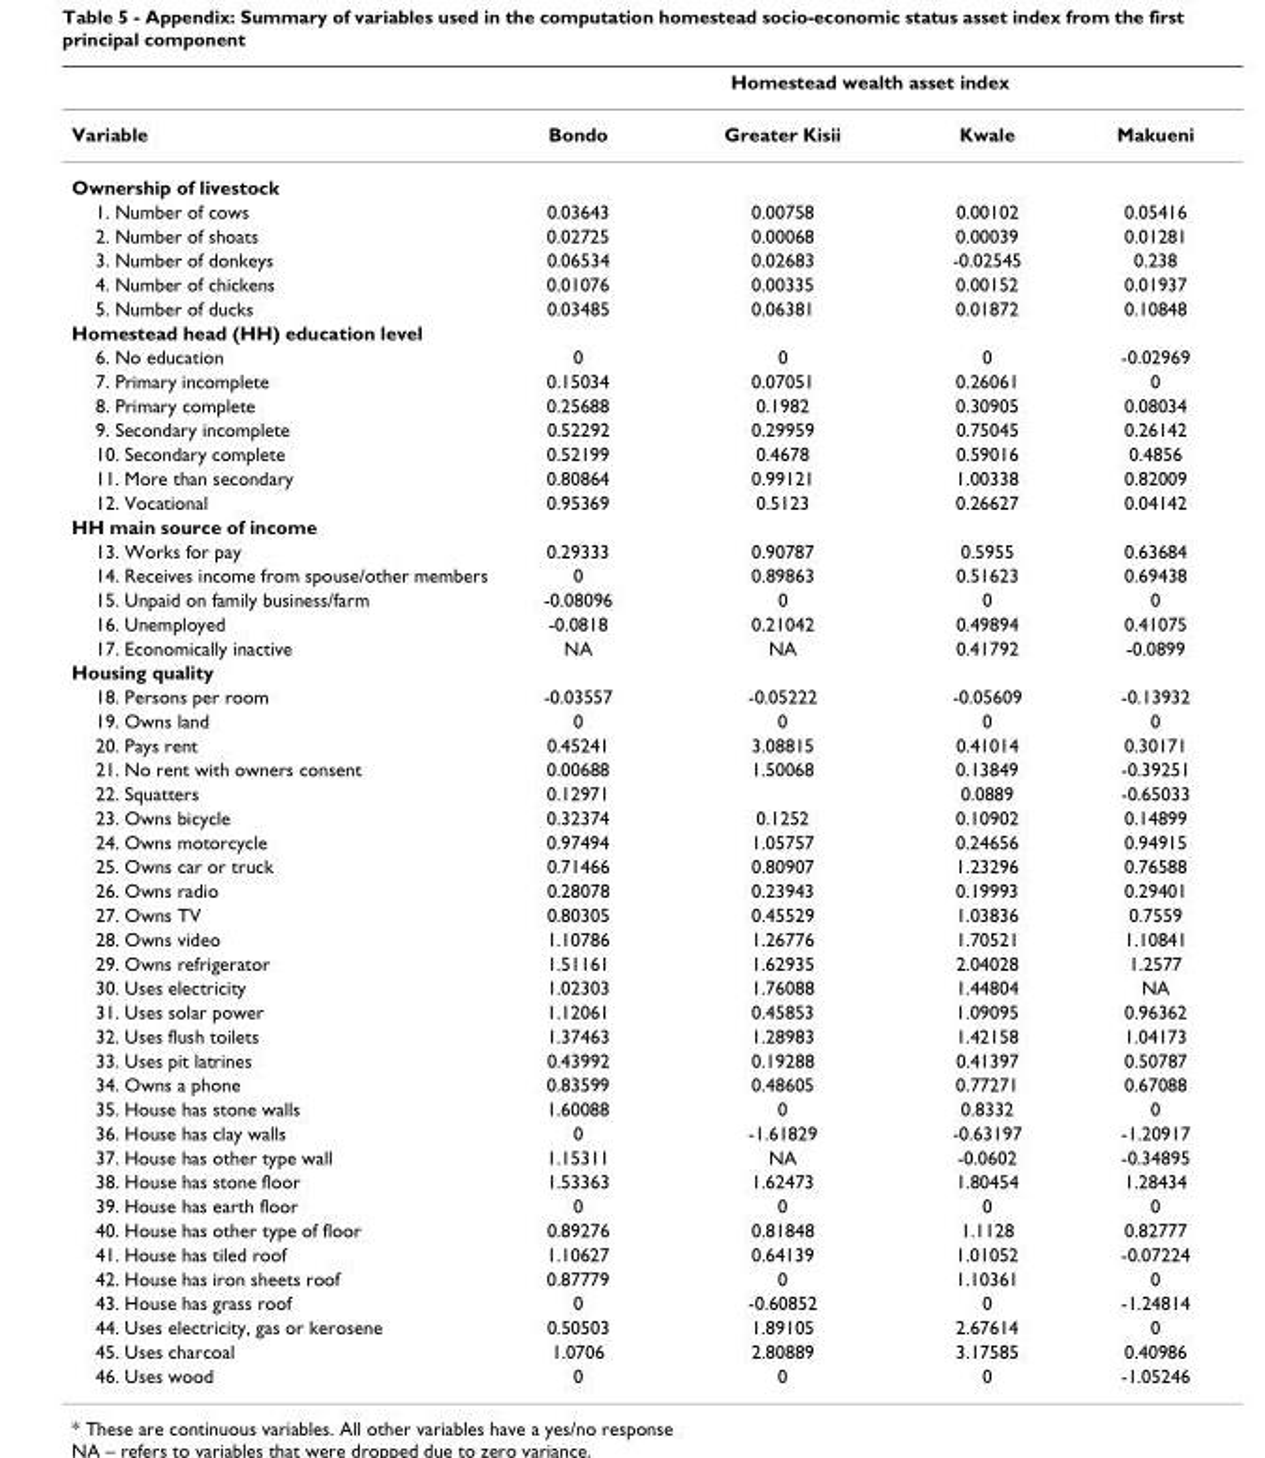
<table><thead><tr><td rowspan="2">Variable</td><td colspan="4">Homestead wealth asset index</td></tr><tr><td>Bondo</td><td>Greater Kisii</td><td>Kwale</td><td>Makueni</td></tr></thead><tbody><tr><td colspan="5">Ownership of livestock</td></tr><tr><td>1. Number of cows</td><td>0.03643</td><td>0.00758</td><td>0.00102</td><td>0.05416</td></tr><tr><td>2. Number of shoats</td><td>0.02725</td><td>0.00068</td><td>0.00039</td><td>0.01281</td></tr><tr><td>3. Number of donkeys</td><td>0.06534</td><td>0.02683</td><td>-0.02545</td><td>0.238</td></tr><tr><td>4. Number of chickens</td><td>0.01076</td><td>0.00335</td><td>0.00152</td><td>0.01937</td></tr><tr><td>5. Number of ducks</td><td>0.03485</td><td>0.06381</td><td>0.01872</td><td>0.10848</td></tr><tr><td colspan="5">Homestead head (HH) education level</td></tr><tr><td>6. No education</td><td>0</td><td>0</td><td>0</td><td>-0.02969</td></tr><tr><td>7. Primary incomplete</td><td>0.15034</td><td>0.07051</td><td>0.26061</td><td>0</td></tr><tr><td>8. Primary complete</td><td>0.25688</td><td>0.1982</td><td>0.30905</td><td>0.08034</td></tr><tr><td>9. Secondary incomplete</td><td>0.52292</td><td>0.29959</td><td>0.75045</td><td>0.26142</td></tr><tr><td>10. Secondary complete</td><td>0.52199</td><td>0.4678</td><td>0.59016</td><td>0.4856</td></tr><tr><td>11. More than secondary</td><td>0.80864</td><td>0.99121</td><td>1.00338</td><td>0.82009</td></tr><tr><td>12. Vocational</td><td>0.95369</td><td>0.5123</td><td>0.26627</td><td>0.04142</td></tr><tr><td colspan="5">HH main source of income</td></tr><tr><td>13. Works for pay</td><td>0.29333</td><td>0.90787</td><td>0.5955</td><td>0.63684</td></tr><tr><td>14. Receives income from spouse/other members</td><td>0</td><td>0.89863</td><td>0.51623</td><td>0.69438</td></tr><tr><td>15. Unpaid on family business/farm</td><td>-0.08096</td><td>0</td><td>0</td><td>0</td></tr><tr><td>16. Unemployed</td><td>-0.0818</td><td>0.21042</td><td>0.49894</td><td>0.41075</td></tr><tr><td>17. Economically inactive</td><td>NA</td><td>NA</td><td>0.41792</td><td>-0.0899</td></tr><tr><td colspan="5">Housing quality</td></tr><tr><td>18. Persons per room</td><td>-0.03557</td><td>-0.05222</td><td>-0.05609</td><td>-0.13932</td></tr><tr><td>19. Owns land</td><td>0</td><td>0</td><td>0</td><td>0</td></tr><tr><td>20. Pays rent</td><td>0.45241</td><td>3.08815</td><td>0.41014</td><td>0.30171</td></tr><tr><td>21. No rent with owners consent</td><td>0.00688</td><td>1.50068</td><td>0.13849</td><td>-0.39251</td></tr><tr><td>22. Squatters</td><td>0.12971</td><td></td><td>0.0889</td><td>-0.65033</td></tr><tr><td>23. Owns bicycle</td><td>0.32374</td><td>0.1252</td><td>0.10902</td><td>0.14899</td></tr><tr><td>24. Owns motorcycle</td><td>0.97494</td><td>1.05757</td><td>0.24656</td><td>0.94915</td></tr><tr><td>25. Owns car or truck</td><td>0.71466</td><td>0.80907</td><td>1.23296</td><td>0.76588</td></tr><tr><td>26. Owns radio</td><td>0.28078</td><td>0.23943</td><td>0.19993</td><td>0.29401</td></tr><tr><td>27. Owns TV</td><td>0.80305</td><td>0.45529</td><td>1.03836</td><td>0.7559</td></tr><tr><td>28. Owns video</td><td>1.10786</td><td>1.26776</td><td>1.70521</td><td>1.10841</td></tr><tr><td>29. Owns refrigerator</td><td>1.51161</td><td>1.62935</td><td>2.04028</td><td>1.2577</td></tr><tr><td>30. Uses electricity</td><td>1.02303</td><td>1.76088</td><td>1.44804</td><td>NA</td></tr><tr><td>31. Uses solar power</td><td>1.12061</td><td>0.45853</td><td>1.09095</td><td>0.96362</td></tr><tr><td>32. Uses flush toilets</td><td>1.37463</td><td>1.28983</td><td>1.42158</td><td>1.04173</td></tr><tr><td>33. Uses pit latrines</td><td>0.43992</td><td>0.19288</td><td>0.41397</td><td>0.50787</td></tr><tr><td>34. Owns a phone</td><td>0.83599</td><td>0.48605</td><td>0.77271</td><td>0.67088</td></tr><tr><td>35. House has stone walls</td><td>1.60088</td><td>0</td><td>0.8332</td><td>0</td></tr><tr><td>36. House has clay walls</td><td>0</td><td>-1.61829</td><td>-0.63197</td><td>-1.20917</td></tr><tr><td>37. House has other type wall</td><td>1.15311</td><td>NA</td><td>-0.0602</td><td>-0.34895</td></tr><tr><td>38. House has stone floor</td><td>1.53363</td><td>1.62473</td><td>1.80454</td><td>1.28434</td></tr><tr><td>39. House has earth floor</td><td>0</td><td>0</td><td>0</td><td>0</td></tr><tr><td>40. House has other type of floor</td><td>0.89276</td><td>0.81848</td><td>1.1128</td><td>0.82777</td></tr><tr><td>41. House has tiled roof</td><td>1.10627</td><td>0.64139</td><td>1.01052</td><td>-0.07224</td></tr><tr><td>42. House has iron sheets roof</td><td>0.87779</td><td>0</td><td>1.10361</td><td>0</td></tr><tr><td>43. House has grass roof</td><td>0</td><td>-0.60852</td><td>0</td><td>-1.24814</td></tr><tr><td>44. Uses electricity, gas or kerosene</td><td>0.50503</td><td>1.89105</td><td>2.67614</td><td>0</td></tr><tr><td>45. Uses charcoal</td><td>1.0706</td><td>2.80889</td><td>3.17585</td><td>0.40986</td></tr><tr><td>46. Uses wood</td><td>0</td><td>0</td><td>0</td><td>-1.05246</td></tr></tbody></table>